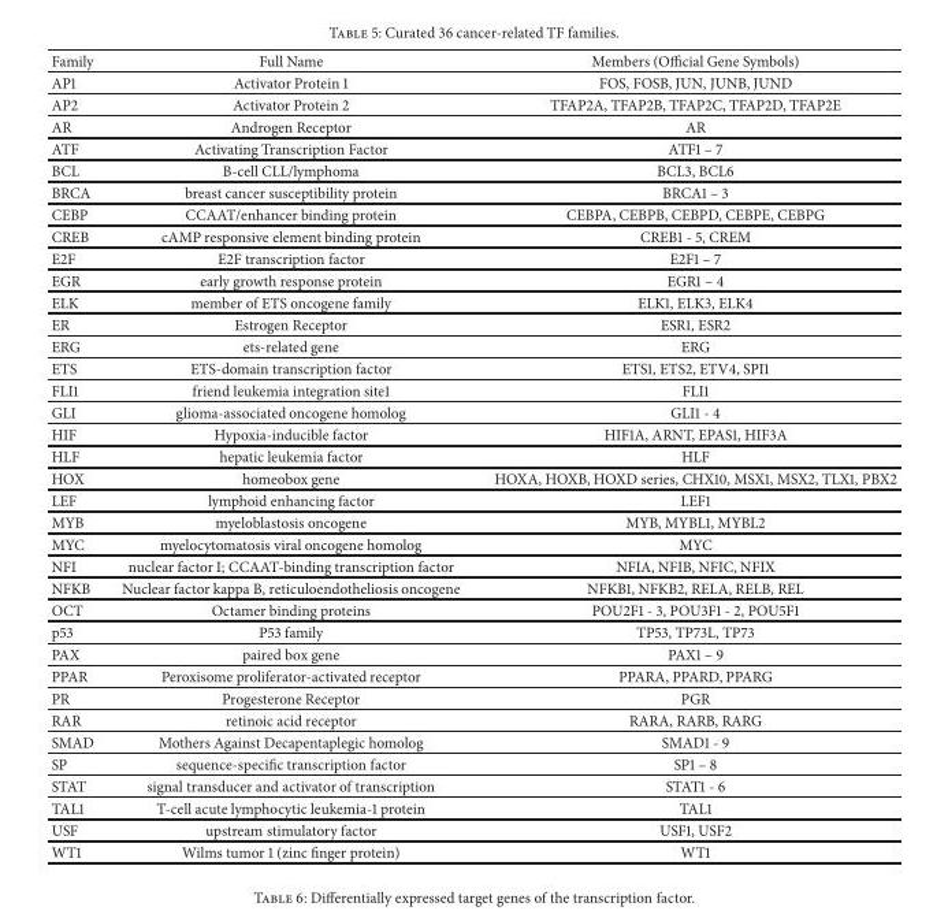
<table><thead><tr><td>Family</td><td>Full Name</td><td>Members (Official Gene Symbols)</td></tr></thead><tbody><tr><td>AP1</td><td>Activator Protein 1</td><td>FOS, FOSB, JUN, JUNB, JUND</td></tr><tr><td>AP2</td><td>Activator Protein 2</td><td>TFAP2A, TFAP2B, TFAP2C, TFAP2D, TFAP2E</td></tr><tr><td>AR</td><td>Androgen Receptor</td><td>AR</td></tr><tr><td>ATF</td><td>Activating Transcription Factor</td><td>ATF1 – 7</td></tr><tr><td>BCL</td><td>B-cell CLL/lymphoma</td><td>BCL3, BCL6</td></tr><tr><td>BRCA</td><td>breast cancer susceptibility protein</td><td>BRCA1 – 3</td></tr><tr><td>CEBP</td><td>CCAAT/enhancer binding protein</td><td>CEBPA, CEBPB, CEBPD, CEBPE, CEBPG</td></tr><tr><td>CREB</td><td>cAMP responsive element binding protein</td><td>CREB1 - 5, CREM</td></tr><tr><td>E2F</td><td>E2F transcription factor</td><td>E2F1 – 7</td></tr><tr><td>EGR</td><td>early growth response protein</td><td>EGR1 – 4</td></tr><tr><td>ELK</td><td>member of ETS oncogene family</td><td>ELK1, ELK3, ELK4</td></tr><tr><td>ER</td><td>Estrogen Receptor</td><td>ESR1, ESR2</td></tr><tr><td>ERG</td><td>ets-related gene</td><td>ERG</td></tr><tr><td>ETS</td><td>ETS-domain transcription factor</td><td>ETS1, ETS2, ETV4, SPI1</td></tr><tr><td>FLI1</td><td>friend leukemia integration site1</td><td>FLI1</td></tr><tr><td>GLI</td><td>glioma-associated oncogene homolog</td><td>GLI1 - 4</td></tr><tr><td>HIF</td><td>Hypoxia-inducible factor</td><td>HIF1A, ARNT, EPAS1, HIF3A</td></tr><tr><td>HLF</td><td>hepatic leukemia factor</td><td>HLF</td></tr><tr><td>HOX</td><td>homeobox gene</td><td>HOXA, HOXB, HOXD series, CHX10, MSX1, MSX2, TLX1, PBX2</td></tr><tr><td>LEF</td><td>lymphoid enhancing factor</td><td>LEF1</td></tr><tr><td>MYB</td><td>myeloblastosis oncogene</td><td>MYB, MYBL1, MYBL2</td></tr><tr><td>MYC</td><td>myelocytomatosis viral oncogene homolog</td><td>MYC</td></tr><tr><td>NFI</td><td>nuclear factor I; CCAAT-binding transcription factor</td><td>NFIA, NFIB, NFIC, NFIX</td></tr><tr><td>NFKB</td><td>Nuclear factor kappa B, reticuloendotheliosis oncogene</td><td>NFKB1, NFKB2, RELA, RELB, REL</td></tr><tr><td>OCT</td><td>Octamer binding proteins</td><td>POU2F1 - 3, POU3F1 - 2, POU5F1</td></tr><tr><td>p53</td><td>P53 family</td><td>TP53, TP73L, TP73</td></tr><tr><td>PAX</td><td>paired box gene</td><td>PAX1 – 9</td></tr><tr><td>PPAR</td><td>Peroxisome proliferator-activated receptor</td><td>PPARA, PPARD, PPARG</td></tr><tr><td>PR</td><td>Progesterone Receptor</td><td>PGR</td></tr><tr><td>RAR</td><td>retinoic acid receptor</td><td>RARA, RARB, RARG</td></tr><tr><td>SMAD</td><td>Mothers Against Decapentaplegic homolog</td><td>SMAD1 - 9</td></tr><tr><td>SP</td><td>sequence-specific transcription factor</td><td>SP1 – 8</td></tr><tr><td>STAT</td><td>signal transducer and activator of transcription</td><td>STAT1 - 6</td></tr><tr><td>TAL1</td><td>T-cell acute lymphocytic leukemia-1 protein</td><td>TAL1</td></tr><tr><td>USF</td><td>upstream stimulatory factor</td><td>USF1, USF2</td></tr><tr><td>WT1</td><td>Wilms tumor 1 (zinc finger protein)</td><td>WT1</td></tr></tbody></table>